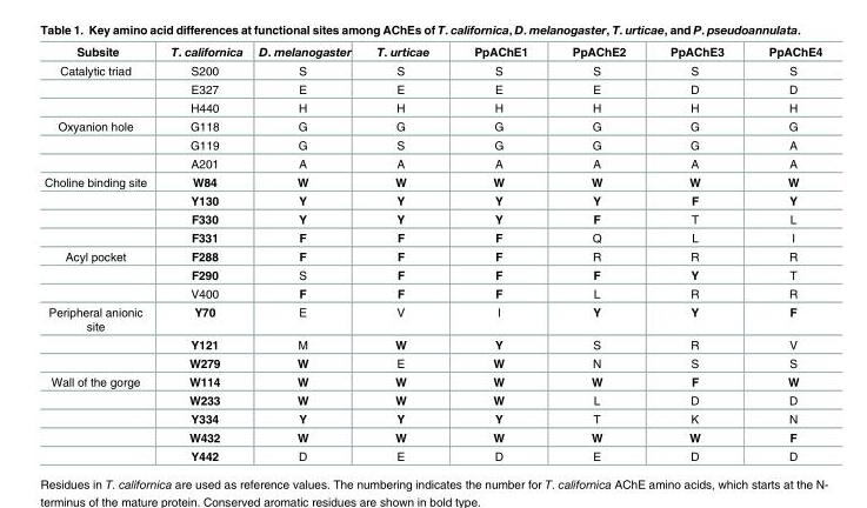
<table><thead><tr><td>Subsite</td><td>T. californica</td><td>D. melanogaster</td><td>T. urticae</td><td>PpAChE1</td><td>PpAChE2</td><td>PpAChE3</td><td>PpAChE4</td></tr></thead><tbody><tr><td rowspan="3">Catalytic triad</td><td>S200</td><td>S</td><td>S</td><td>S</td><td>S</td><td>S</td><td>S</td></tr><tr><td>E327</td><td>E</td><td>E</td><td>E</td><td>E</td><td>D</td><td>D</td></tr><tr><td>H440</td><td>H</td><td>H</td><td>H</td><td>H</td><td>H</td><td>H</td></tr><tr><td rowspan="3">Oxyanion hole</td><td>G118</td><td>G</td><td>G</td><td>G</td><td>G</td><td>G</td><td>G</td></tr><tr><td>G119</td><td>G</td><td>S</td><td>G</td><td>G</td><td>G</td><td>A</td></tr><tr><td>A201</td><td>A</td><td>A</td><td>A</td><td>A</td><td>A</td><td>A</td></tr><tr><td rowspan="4">Choline binding site</td><td>W84</td><td>W</td><td>W</td><td>W</td><td>W</td><td>W</td><td>W</td></tr><tr><td>Y130</td><td>Y</td><td>Y</td><td>Y</td><td>Y</td><td>F</td><td>Y</td></tr><tr><td>F330</td><td>Y</td><td>Y</td><td>Y</td><td>F</td><td>T</td><td>L</td></tr><tr><td>F331</td><td>F</td><td>F</td><td>F</td><td>Q</td><td>L</td><td>I</td></tr><tr><td rowspan="3">Acyl pocket</td><td>F288</td><td>F</td><td>F</td><td>F</td><td>R</td><td>R</td><td>R</td></tr><tr><td>F290</td><td>S</td><td>F</td><td>F</td><td>F</td><td>Y</td><td>T</td></tr><tr><td>V400</td><td>F</td><td>F</td><td>F</td><td>L</td><td>R</td><td>R</td></tr><tr><td rowspan="3">Peripheral anionic site</td><td>Y70</td><td>E</td><td>V</td><td>I</td><td>Y</td><td>Y</td><td>F</td></tr><tr><td>Y121</td><td>M</td><td>W</td><td>Y</td><td>S</td><td>R</td><td>V</td></tr><tr><td>W279</td><td>W</td><td>E</td><td>W</td><td>N</td><td>S</td><td>S</td></tr><tr><td rowspan="5">Wall of the gorge</td><td>W114</td><td>W</td><td>W</td><td>W</td><td>W</td><td>F</td><td>W</td></tr><tr><td>W233</td><td>W</td><td>W</td><td>W</td><td>L</td><td>D</td><td>D</td></tr><tr><td>Y334</td><td>Y</td><td>Y</td><td>Y</td><td>T</td><td>K</td><td>N</td></tr><tr><td>W432</td><td>W</td><td>W</td><td>W</td><td>W</td><td>W</td><td>F</td></tr><tr><td>Y442</td><td>D</td><td>E</td><td>D</td><td>E</td><td>D</td><td>D</td></tr></tbody></table>